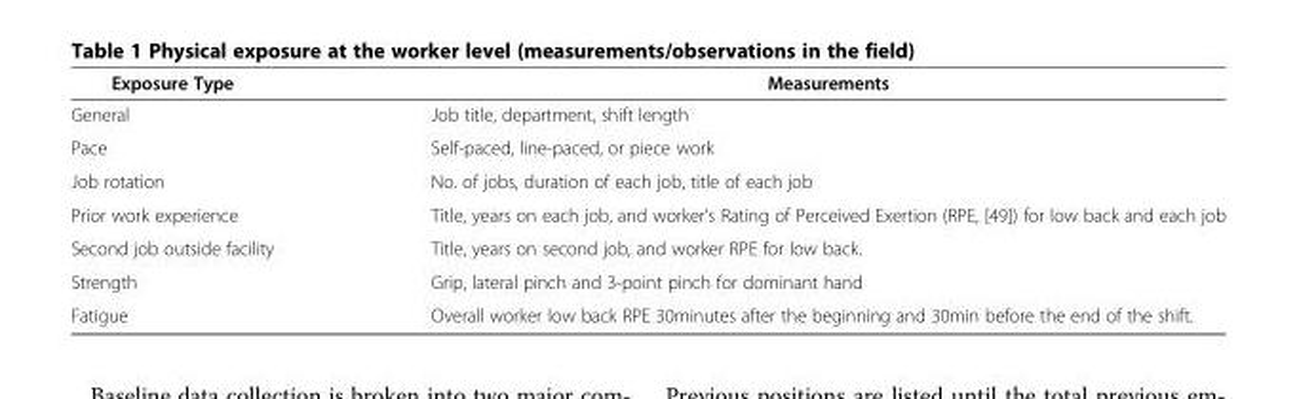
<table><thead><tr><td>Exposure Type</td><td>Measurements</td></tr></thead><tbody><tr><td>General</td><td>Job title, department, shift length</td></tr><tr><td>Pace</td><td>Self-paced, line-paced, or piece work</td></tr><tr><td>Job rotation</td><td>No. of jobs, duration of each job, title of each job</td></tr><tr><td>Prior work experience</td><td>Title, years on each job, and worker’s Rating of Perceived Exertion (RPE, [49]) for low back and each job</td></tr><tr><td>Second job outside facility</td><td>Title, years on second job, and worker RPE for low back.</td></tr><tr><td>Strength</td><td>Grip, lateral pinch and 3-point pinch for dominant hand</td></tr><tr><td>Fatigue</td><td>Overall worker low back RPE 30minutes after the beginning and 30min before the end of the shift.</td></tr></tbody></table>